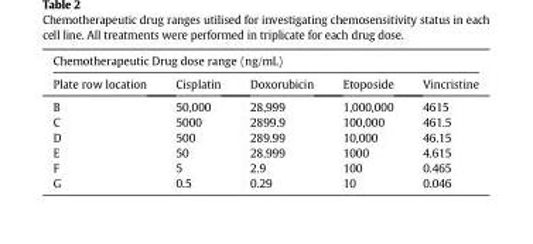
<table><thead><tr><td colspan="5">Chemotherapeutic Drug dose range (ng/mL)</td></tr><tr><td>Plate row location</td><td>Cisplatin</td><td>Doxorubicin</td><td>Etoposide</td><td>Vincristine</td></tr></thead><tbody><tr><td>B</td><td>50,000</td><td>28,999</td><td>1,000,000</td><td>4615</td></tr><tr><td>C</td><td>5000</td><td>2899.9</td><td>100,000</td><td>461.5</td></tr><tr><td>D</td><td>500</td><td>289.99</td><td>10,000</td><td>46.15</td></tr><tr><td>E</td><td>50</td><td>28.999</td><td>1000</td><td>4.615</td></tr><tr><td>F</td><td>5</td><td>2.9</td><td>100</td><td>0.465</td></tr><tr><td>G</td><td>0.5</td><td>0.29</td><td>10</td><td>0.046</td></tr></tbody></table>